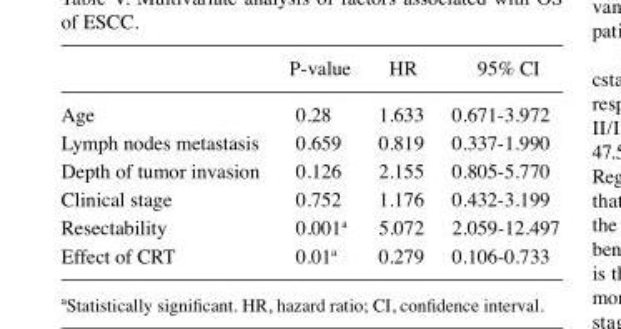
<table><thead><tr><td></td><td>P-value</td><td>HR</td><td>95% CI</td></tr></thead><tbody><tr><td>Age</td><td>0.28</td><td>1.633</td><td>0.671-3.972</td></tr><tr><td>Lymph nodes metastasis</td><td>0.659</td><td>0.819</td><td>0.337-1.990</td></tr><tr><td>Depth of tumor invasion</td><td>0.126</td><td>2.155</td><td>0.805-5.770</td></tr><tr><td>Clinical stage</td><td>0.752</td><td>1.176</td><td>0.432-3.199</td></tr><tr><td>Resectability</td><td>0.001<sup>a</sup></td><td>5.072</td><td>2.059-12.497</td></tr><tr><td>Effect of CRT</td><td>0.01<sup>a</sup></td><td>0.279</td><td>0.106-0.733</td></tr></tbody></table>